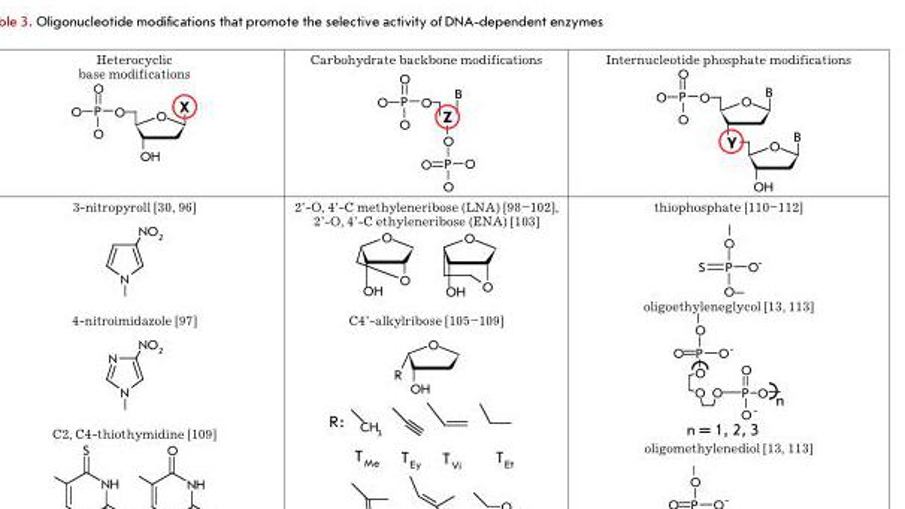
<table><tbody><tr><td>Heterocyclic base modifications</td><td>Carbohydrate backbone modifications</td><td>Internucleotide phosphate modifications</td></tr><tr><td>3-nitropyroll [30, 96] 4-nitroimidazole [97] С2, С4-thiothymidine [109]</td><td>2’-O, 4’-C methyleneribose (LNA) [98–102], 2’-O, 4’-C ethyleneribose (ENA) [103] С4’-alkylribose [105–109]</td><td>thiophosphate [110–112] oligoethyleneglycol [13, 113] oligomethylenediol [13, 113] - - -</td></tr></tbody></table>